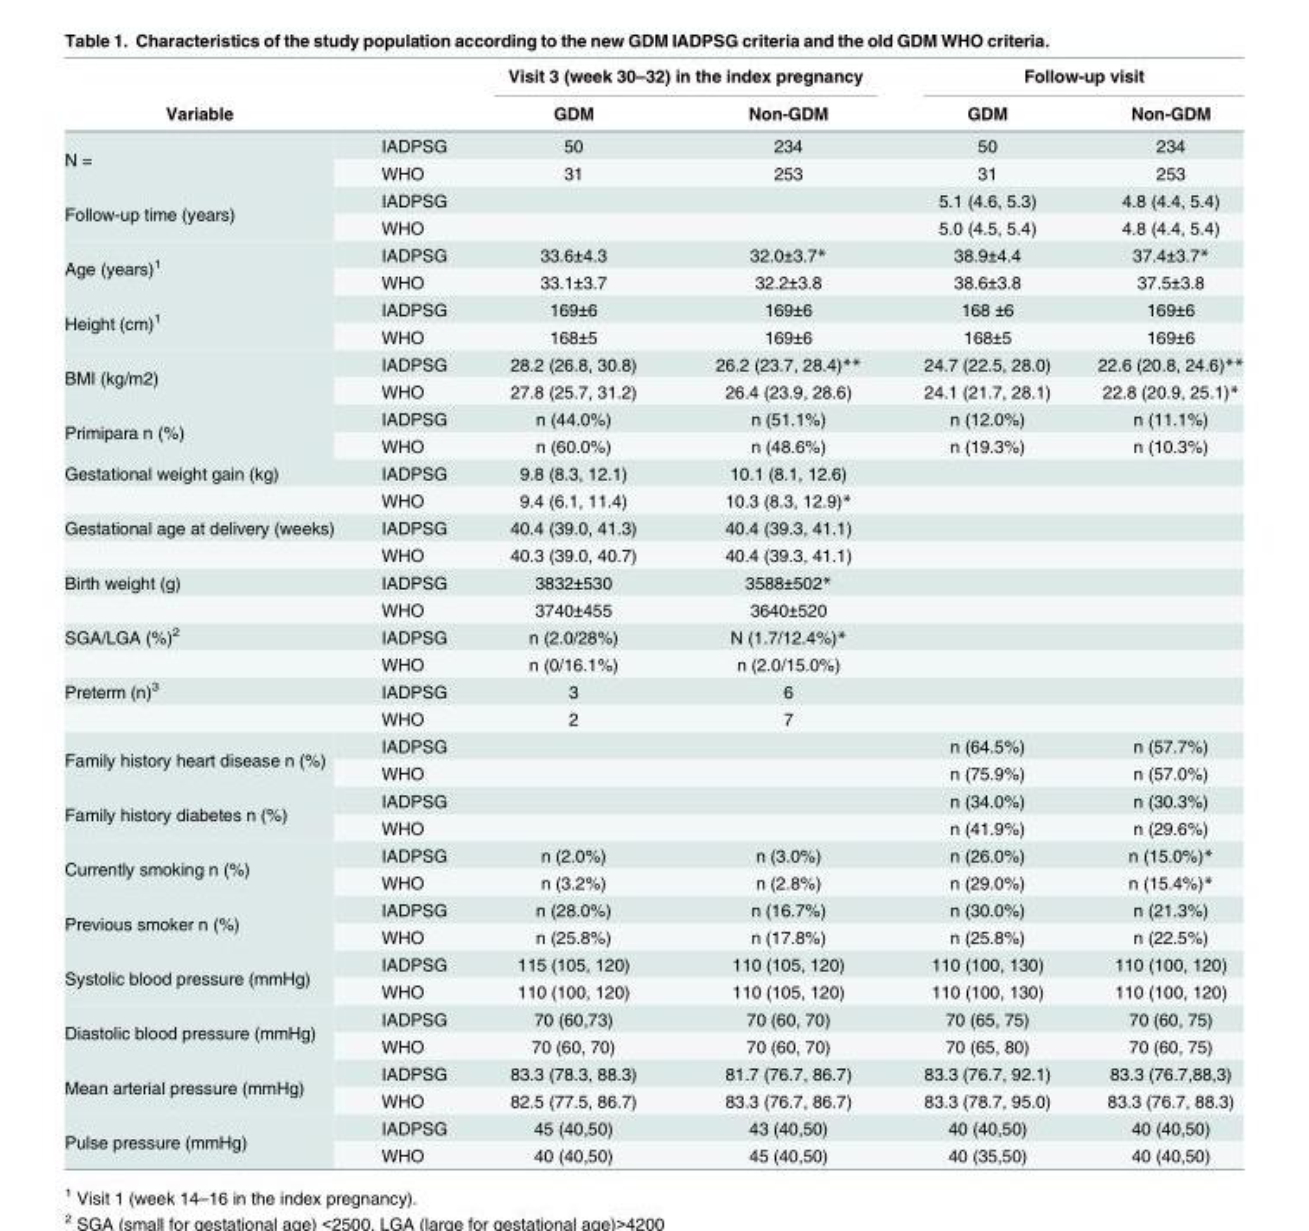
<table><thead><tr><td rowspan="2">Variable</td><td rowspan="2"></td><td colspan="2">Visit 3 (week 30–32) in the index pregnancy</td><td colspan="2">Follow-up visit</td></tr><tr><td>GDM</td><td>Non-GDM</td><td>GDM</td><td>Non-GDM</td></tr></thead><tbody><tr><td rowspan="2">N =</td><td>IADPSG</td><td>50</td><td>234</td><td>50</td><td>234</td></tr><tr><td>WHO</td><td>31</td><td>253</td><td>31</td><td>253</td></tr><tr><td rowspan="2">Follow-up time (years)</td><td>IADPSG</td><td></td><td></td><td>5.1 (4.6, 5.3)</td><td>4.8 (4.4, 5.4)</td></tr><tr><td>WHO</td><td></td><td></td><td>5.0 (4.5, 5.4)</td><td>4.8 (4.4, 5.4)</td></tr><tr><td rowspan="2">Age (years)<sup>1</sup></td><td>IADPSG</td><td>33.6±4.3</td><td>32.0±3.7*</td><td>38.9±4.4</td><td>37.4±3.7*</td></tr><tr><td>WHO</td><td>33.1±3.7</td><td>32.2±3.8</td><td>38.6±3.8</td><td>37.5±3.8</td></tr><tr><td rowspan="2">Height (cm)<sup>1</sup></td><td>IADPSG</td><td>169±6</td><td>169±6</td><td>168 ±6</td><td>169±6</td></tr><tr><td>WHO</td><td>168±5</td><td>169±6</td><td>168±5</td><td>169±6</td></tr><tr><td rowspan="2">BMI (kg/m2)</td><td>IADPSG</td><td>28.2 (26.8, 30.8)</td><td>26.2 (23.7, 28.4)**</td><td>24.7 (22.5, 28.0)</td><td>22.6 (20.8, 24.6)**</td></tr><tr><td>WHO</td><td>27.8 (25.7, 31.2)</td><td>26.4 (23.9, 28.6)</td><td>24.1 (21.7, 28.1)</td><td>22.8 (20.9, 25.1)*</td></tr><tr><td rowspan="2">Primipara n (%)</td><td>IADPSG</td><td>n (44.0%)</td><td>n (51.1%)</td><td>n (12.0%)</td><td>n (11.1%)</td></tr><tr><td>WHO</td><td>n (60.0%)</td><td>n (48.6%)</td><td>n (19.3%)</td><td>n (10.3%)</td></tr><tr><td rowspan="2">Gestational weight gain (kg)</td><td>IADPSG</td><td>9.8 (8.3, 12.1)</td><td>10.1 (8.1, 12.6)</td><td></td><td></td></tr><tr><td>WHO</td><td>9.4 (6.1, 11.4)</td><td>10.3 (8.3, 12.9)*</td><td></td><td></td></tr><tr><td rowspan="2">Gestational age at delivery (weeks)</td><td>IADPSG</td><td>40.4 (39.0, 41.3)</td><td>40.4 (39.3, 41.1)</td><td></td><td></td></tr><tr><td>WHO</td><td>40.3 (39.0, 40.7)</td><td>40.4 (39.3, 41.1)</td><td></td><td></td></tr><tr><td rowspan="2">Birth weight (g)</td><td>IADPSG</td><td>3832±530</td><td>3588±502*</td><td></td><td></td></tr><tr><td>WHO</td><td>3740±455</td><td>3640±520</td><td></td><td></td></tr><tr><td rowspan="2">SGA/LGA (%)<sup>2</sup></td><td>IADPSG</td><td>n (2.0/28%)</td><td>N (1.7/12.4%)*</td><td></td><td></td></tr><tr><td>WHO</td><td>n (0/16.1%)</td><td>n (2.0/15.0%)</td><td></td><td></td></tr><tr><td rowspan="2">Preterm (n)<sup>3</sup></td><td>IADPSG</td><td>3</td><td>6</td><td></td><td></td></tr><tr><td>WHO</td><td>2</td><td>7</td><td></td><td></td></tr><tr><td rowspan="2">Family history heart disease n (%)</td><td>IADPSG</td><td></td><td></td><td>n (64.5%)</td><td>n (57.7%)</td></tr><tr><td>WHO</td><td></td><td></td><td>n (75.9%)</td><td>n (57.0%)</td></tr><tr><td rowspan="2">Family history diabetes n (%)</td><td>IADPSG</td><td></td><td></td><td>n (34.0%)</td><td>n (30.3%)</td></tr><tr><td>WHO</td><td></td><td></td><td>n (41.9%)</td><td>n (29.6%)</td></tr><tr><td rowspan="2">Currently smoking n (%)</td><td>IADPSG</td><td>n (2.0%)</td><td>n (3.0%)</td><td>n (26.0%)</td><td>n (15.0%)*</td></tr><tr><td>WHO</td><td>n (3.2%)</td><td>n (2.8%)</td><td>n (29.0%)</td><td>n (15.4%)*</td></tr><tr><td rowspan="2">Previous smoker n (%)</td><td>IADPSG</td><td>n (28.0%)</td><td>n (16.7%)</td><td>n (30.0%)</td><td>n (21.3%)</td></tr><tr><td>WHO</td><td>n (25.8%)</td><td>n (17.8%)</td><td>n (25.8%)</td><td>n (22.5%)</td></tr><tr><td rowspan="2">Systolic blood pressure (mmHg)</td><td>IADPSG</td><td>115 (105, 120)</td><td>110 (105, 120)</td><td>110 (100, 130)</td><td>110 (100, 120)</td></tr><tr><td>WHO</td><td>110 (100, 120)</td><td>110 (105, 120)</td><td>110 (100, 130)</td><td>110 (100, 120)</td></tr><tr><td rowspan="2">Diastolic blood pressure (mmHg)</td><td>IADPSG</td><td>70 (60,73)</td><td>70 (60, 70)</td><td>70 (65, 75)</td><td>70 (60, 75)</td></tr><tr><td>WHO</td><td>70 (60, 70)</td><td>70 (60, 70)</td><td>70 (65, 80)</td><td>70 (60, 75)</td></tr><tr><td rowspan="2">Mean arterial pressure (mmHg)</td><td>IADPSG</td><td>83.3 (78.3, 88.3)</td><td>81.7 (76.7, 86.7)</td><td>83.3 (76.7, 92.1)</td><td>83.3 (76.7,88,3)</td></tr><tr><td>WHO</td><td>82.5 (77.5, 86.7)</td><td>83.3 (76.7, 86.7)</td><td>83.3 (78.7, 95.0)</td><td>83.3 (76.7, 88.3)</td></tr><tr><td rowspan="2">Pulse pressure (mmHg)</td><td>IADPSG</td><td>45 (40,50)</td><td>43 (40,50)</td><td>40 (40,50)</td><td>40 (40,50)</td></tr><tr><td>WHO</td><td>40 (40,50)</td><td>45 (40,50)</td><td>40 (35,50)</td><td>40 (40,50)</td></tr></tbody></table>